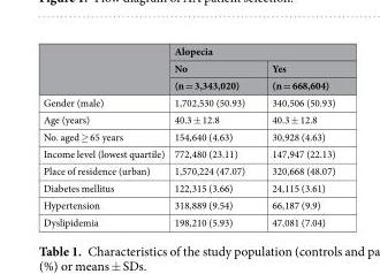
<table><thead><tr><td rowspan="3"></td><td colspan="2">Alopecia</td></tr><tr><td rowspan="2">No (n = 3,343,020)</td><td rowspan="2">Yes (n = 668,604)</td></tr><tr></tr></thead><tbody><tr><td>Gender (male)</td><td>1,702,530 (50.93)</td><td>340,506 (50.93)</td></tr><tr><td>Age (years)</td><td>40.3 ± 12.8</td><td>40.3 ± 12.8</td></tr><tr><td>No. aged ≥ 65 years</td><td>154,640 (4.63)</td><td>30,928 (4.63)</td></tr><tr><td>Income level (lowest quartile)</td><td>772,480 (23.11)</td><td>147,947 (22.13)</td></tr><tr><td>Place of residence (urban)</td><td>1,570,224 (47.07)</td><td>320,668 (48.07)</td></tr><tr><td>Diabetes mellitus</td><td>122,315 (3.66)</td><td>24,115 (3.61)</td></tr><tr><td>Hypertension</td><td>318,889 (9.54)</td><td>66,187 (9.9)</td></tr><tr><td>Dyslipidemia</td><td>198,210 (5.93)</td><td>47,081 (7.04)</td></tr></tbody></table>